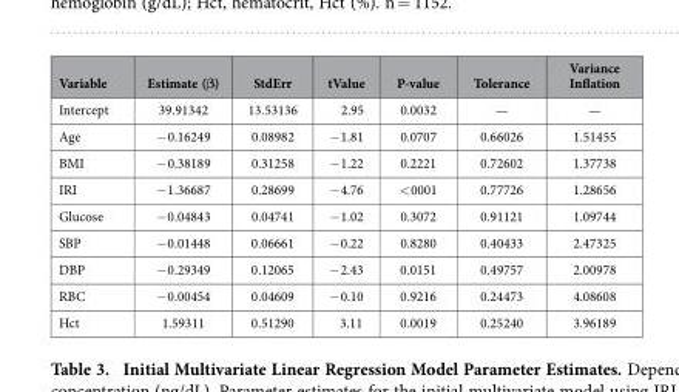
<table><thead><tr><td>Variable</td><td>Estimate (β)</td><td>StdErr</td><td>tValue</td><td>P-value</td><td>Tolerance</td><td>Variance Inflation</td></tr></thead><tbody><tr><td>Intercept</td><td>39.91342</td><td>13.53136</td><td>2.95</td><td>0.0032</td><td>—</td><td>—</td></tr><tr><td>Age</td><td>− 0.16249</td><td>0.08982</td><td>− 1.81</td><td>0.0707</td><td>0.66026</td><td>1.51455</td></tr><tr><td>BMI</td><td>− 0.38189</td><td>0.31258</td><td>− 1.22</td><td>0.2221</td><td>0.72602</td><td>1.37738</td></tr><tr><td>IRI</td><td>− 1.36687</td><td>0.28699</td><td>− 4.76</td><td>&lt; 0001</td><td>0.77726</td><td>1.28656</td></tr><tr><td>Glucose</td><td>− 0.04843</td><td>0.04741</td><td>− 1.02</td><td>0.3072</td><td>0.91121</td><td>1.09744</td></tr><tr><td>SBP</td><td>− 0.01448</td><td>0.06661</td><td>− 0.22</td><td>0.8280</td><td>0.40433</td><td>2.47325</td></tr><tr><td>DBP</td><td>− 0.29349</td><td>0.12065</td><td>− 2.43</td><td>0.0151</td><td>0.49757</td><td>2.00978</td></tr><tr><td>RBC</td><td>− 0.00454</td><td>0.04609</td><td>− 0.10</td><td>0.9216</td><td>0.24473</td><td>4.08608</td></tr><tr><td>Hct</td><td>1.59311</td><td>0.51290</td><td>3.11</td><td>0.0019</td><td>0.25240</td><td>3.96189</td></tr></tbody></table>